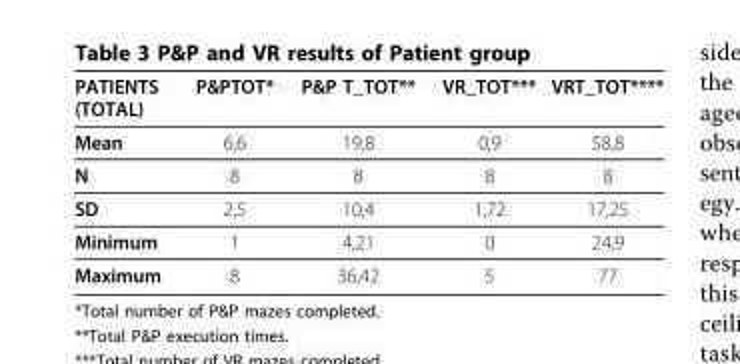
<table><thead><tr><td>PATIENTS (TOTAL)</td><td>P&amp;PTOT*</td><td>P&amp;P T_TOT**</td><td>VR_TOT***</td><td>VRT_TOT****</td></tr></thead><tbody><tr><td>Mean</td><td>6,6</td><td>19,8</td><td>0,9</td><td>58,8</td></tr><tr><td>N</td><td>8</td><td>8</td><td>8</td><td>8</td></tr><tr><td>SD</td><td>2,5</td><td>10,4</td><td>1,72</td><td>17,25</td></tr><tr><td>Minimum</td><td>1</td><td>4,21</td><td>0</td><td>24,9</td></tr><tr><td>Maximum</td><td>8</td><td>36,42</td><td>5</td><td>77</td></tr></tbody></table>